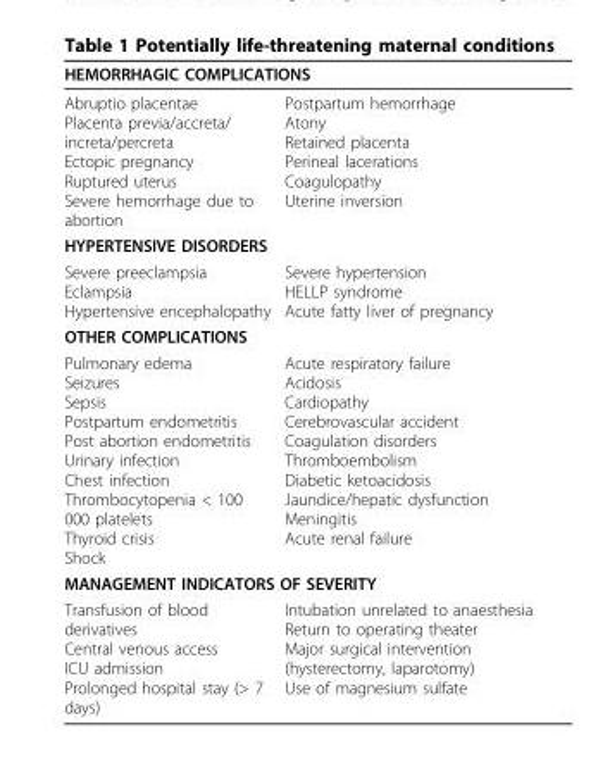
<table><thead><tr><td colspan="2">HEMORRHAGIC COMPLICATIONS</td></tr><tr><td>Abruptio placentae Placenta previa/accreta/ increta/percreta Ectopic pregnancy Ruptured uterus Severe hemorrhage due to abortion</td><td>Postpartum hemorrhage Atony Retained placenta Perineal lacerations Coagulopathy Uterine inversion</td></tr></thead><tbody><tr><td colspan="2">HYPERTENSIVE DISORDERS</td></tr><tr><td>Severe preeclampsia Eclampsia Hypertensive encephalopathy</td><td>Severe hypertension HELLP syndrome Acute fatty liver of pregnancy</td></tr><tr><td colspan="2">OTHER COMPLICATIONS</td></tr><tr><td>Pulmonary edema Seizures Sepsis Postpartum endometritis Post abortion endometritis Urinary infection Chest infection Thrombocytopenia &lt; 100 000 platelets Thyroid crisis Shock</td><td>Acute respiratory failure Acidosis Cardiopathy Cerebrovascular accident Coagulation disorders Thromboembolism Diabetic ketoacidosis Jaundice/hepatic dysfunction Meningitis Acute renal failure</td></tr><tr><td colspan="2">MANAGEMENT INDICATORS OF SEVERITY</td></tr><tr><td>Transfusion of blood derivatives Central venous access ICU admission Prolonged hospital stay (&gt; 7 days)</td><td>Intubation unrelated to anaesthesia Return to operating theater Major surgical intervention (hysterectomy, laparotomy) Use of magnesium sulfate</td></tr></tbody></table>